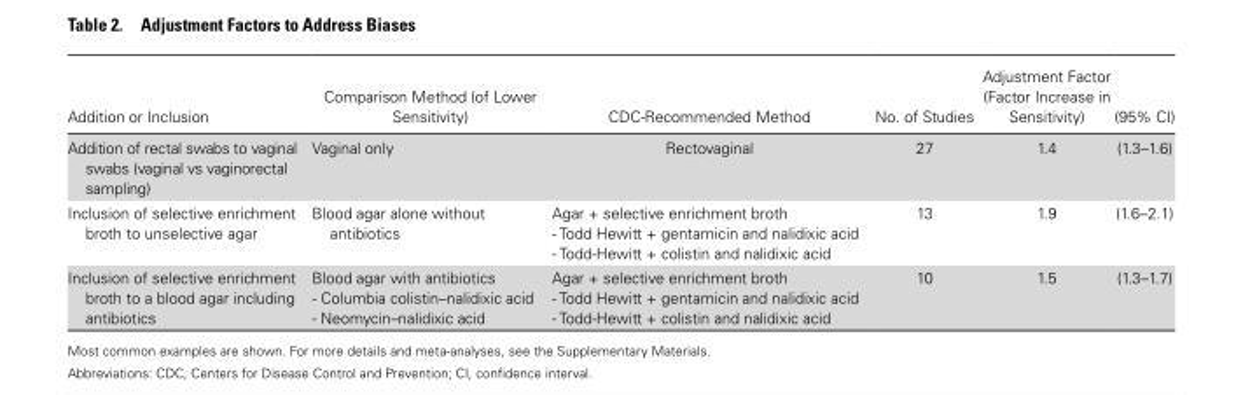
<table><thead><tr><td>Addition or Inclusion</td><td>Comparison Method (of Lower Sensitivity)</td><td>CDC-Recommended Method</td><td>No. of Studies</td><td>Adjustment Factor (Factor Increase in Sensitivity)</td><td>(95% CI)</td></tr></thead><tbody><tr><td>Addition of rectal swabs to vaginal swabs (vaginal vs vaginorectal sampling)</td><td>Vaginal only</td><td>Rectovaginal</td><td>27</td><td>1.4</td><td>(1.3–1.6)</td></tr><tr><td>Inclusion of selective enrichment broth to unselective agar</td><td>Blood agar alone without antibiotics</td><td>Agar + selective enrichment broth - Todd Hewitt + gentamicin and nalidixic acid - Todd-Hewitt + colistin and nalidixic acid</td><td>13</td><td>1.9</td><td>(1.6–2.1)</td></tr><tr><td>Inclusion of selective enrichment broth to a blood agar including antibiotics</td><td>Blood agar with antibiotics - Columbia colistin–nalidixic acid - Neomycin–nalidixic acid</td><td>Agar + selective enrichment broth - Todd Hewitt + gentamicin and nalidixic acid - Todd-Hewitt + colistin and nalidixic acid</td><td>10</td><td>1.5</td><td>(1.3–1.7)</td></tr></tbody></table>